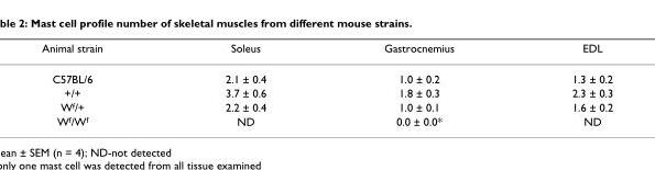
<table><thead><tr><td>Animal strain</td><td>Soleus</td><td>Gastrocnemius</td><td>EDL</td></tr></thead><tbody><tr><td>C57BL/6</td><td>2.1 ± 0.4</td><td>1.0 ± 0.2</td><td>1.3 ± 0.2</td></tr><tr><td>+/+</td><td>3.7 ± 0.6</td><td>1.8 ± 0.3</td><td>2.3 ± 0.3</td></tr><tr><td>W<sup>f</sup>/+</td><td>2.2 ± 0.4</td><td>1.0 ± 0.1</td><td>1.6 ± 0.2</td></tr><tr><td>W<sup>f</sup>/W<sup>f</sup></td><td>ND</td><td>0.0 ± 0.0*</td><td>ND</td></tr></tbody></table>